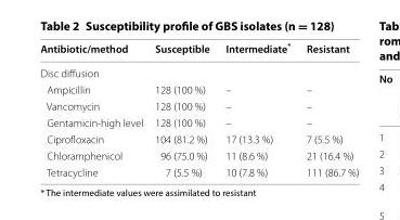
<table><thead><tr><td>Antibiotic/method</td><td>Susceptible</td><td>Intermediate*</td><td>Resistant</td></tr></thead><tbody><tr><td colspan="4">Disc diffusion</td></tr><tr><td>Ampicillin</td><td>128 (100 %)</td><td>–</td><td>–</td></tr><tr><td>Vancomycin</td><td>128 (100 %)</td><td>–</td><td>–</td></tr><tr><td>Gentamicin-high level</td><td>128 (100 %)</td><td>–</td><td>–</td></tr><tr><td>Ciprofloxacin</td><td>104 (81.2 %)</td><td>17 (13.3 %)</td><td>7 (5.5 %)</td></tr><tr><td>Chloramphenicol</td><td>96 (75.0 %)</td><td>11 (8.6 %)</td><td>21 (16.4 %)</td></tr><tr><td>Tetracycline</td><td>7 (5.5 %)</td><td>10 (7.8 %)</td><td>111 (86.7 %)</td></tr></tbody></table>